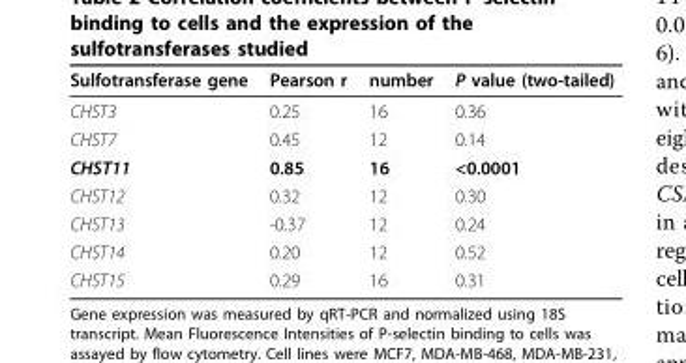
<table><thead><tr><td>Sulfotransferase gene</td><td>Pearson r</td><td>number</td><td>P value (two-tailed)</td></tr></thead><tbody><tr><td>CHST3</td><td>0.25</td><td>16</td><td>0.36</td></tr><tr><td>CHST7</td><td>0.45</td><td>12</td><td>0.14</td></tr><tr><td>CHST11</td><td>0.85</td><td>16</td><td>&lt;0.0001</td></tr><tr><td>CHST12</td><td>0.32</td><td>12</td><td>0.30</td></tr><tr><td>CHST13</td><td>-0.37</td><td>12</td><td>0.24</td></tr><tr><td>CHST14</td><td>0.20</td><td>12</td><td>0.52</td></tr><tr><td>CHST15</td><td>0.29</td><td>16</td><td>0.31</td></tr></tbody></table>